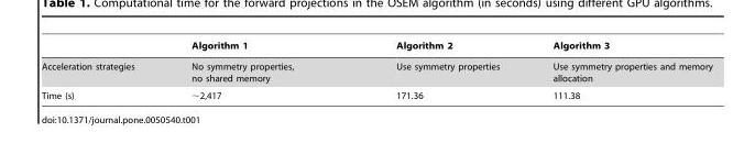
<table><thead><tr><td></td><td>Algorithm 1</td><td>Algorithm 2</td><td>Algorithm 3</td></tr></thead><tbody><tr><td>Acceleration strategies</td><td>No symmetry properties, no shared memory</td><td>Use symmetry properties</td><td>Use symmetry properties and memory allocation</td></tr><tr><td>Time (s)</td><td>∼2,417</td><td>171.36</td><td>111.38</td></tr></tbody></table>